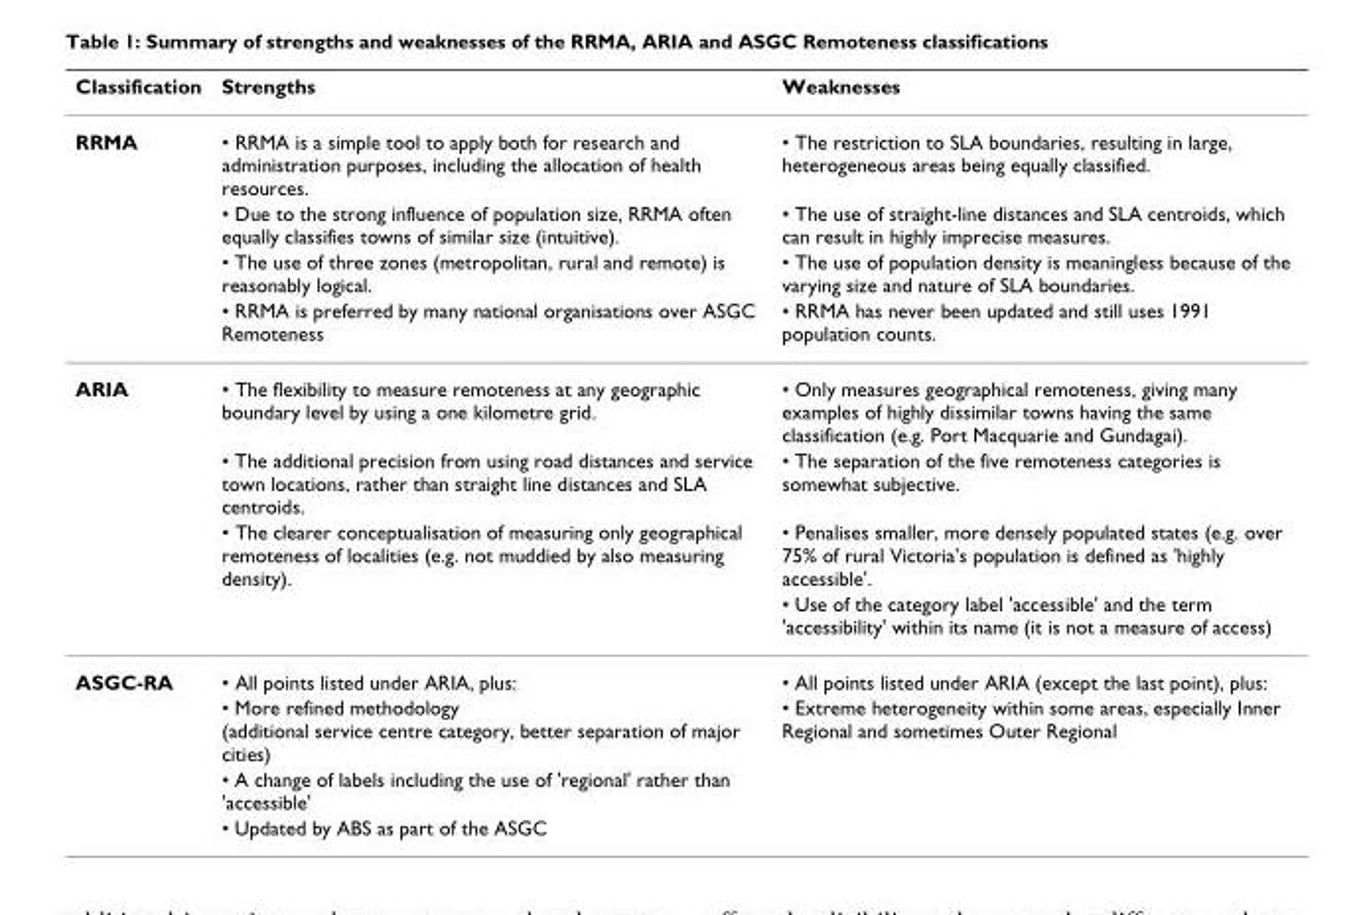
<table><thead><tr><td>Classification</td><td>Strengths</td><td>Weaknesses</td></tr></thead><tbody><tr><td rowspan="4">RRMA</td><td>• RRMA is a simple tool to apply both for research and administration purposes, including the allocation of health resources.</td><td>• The restriction to SLA boundaries, resulting in large, heterogeneous areas being equally classified.</td></tr><tr><td>• Due to the strong influence of population size, RRMA often equally classifies towns of similar size (intuitive).</td><td>• The use of straight-line distances and SLA centroids, which can result in highly imprecise measures.</td></tr><tr><td>• The use of three zones (metropolitan, rural and remote) is reasonably logical.</td><td>• The use of population density is meaningless because of the varying size and nature of SLA boundaries.</td></tr><tr><td>• RRMA is preferred by many national organisations over ASGC Remoteness</td><td>• RRMA has never been updated and still uses 1991 population counts.</td></tr><tr><td rowspan="4">ARIA</td><td>• The flexibility to measure remoteness at any geographic boundary level by using a one kilometre grid.</td><td>• Only measures geographical remoteness, giving many examples of highly dissimilar towns having the same classification (e.g. Port Macquarie and Gundagai).</td></tr><tr><td>• The additional precision from using road distances and service town locations, rather than straight line distances and SLA centroids.</td><td>• The separation of the five remoteness categories is somewhat subjective.</td></tr><tr><td>• The clearer conceptualisation of measuring only geographical remoteness of localities (e.g. not muddied by also measuring density).</td><td>• Penalises smaller, more densely populated states (e.g. over 75% of rural Victoria&#x27;s population is defined as &#x27;highly accessible&#x27;.</td></tr><tr><td></td><td>• Use of the category label &#x27;accessible&#x27; and the term &#x27;accessibility&#x27; within its name (it is not a measure of access)</td></tr><tr><td rowspan="4">ASGC-RA</td><td>• All points listed under ARIA, plus:</td><td>• All points listed under ARIA (except the last point), plus:</td></tr><tr><td>• More refined methodology (additional service centre category, better separation of major cities)</td><td>• Extreme heterogeneity within some areas, especially Inner Regional and sometimes Outer Regional</td></tr><tr><td>• A change of labels including the use of &#x27;regional&#x27; rather than &#x27;accessible&#x27;</td><td></td></tr><tr><td>• Updated by ABS as part of the ASGC</td><td></td></tr></tbody></table>